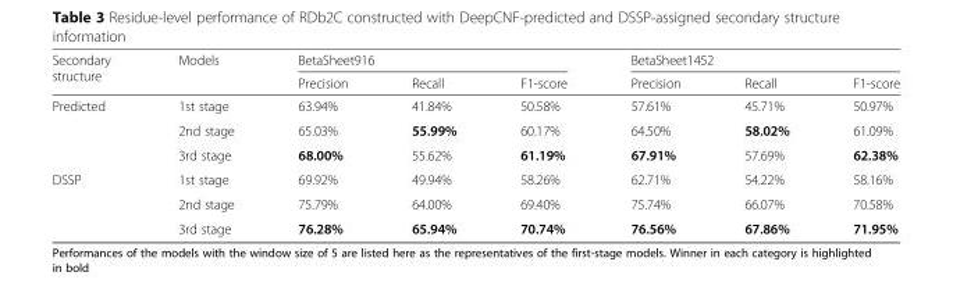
<table><thead><tr><td rowspan="2">Secondary structure</td><td rowspan="2">Models</td><td colspan="3">BetaSheet916</td><td colspan="3">BetaSheet1452</td></tr><tr><td>Precision</td><td>Recall</td><td>F1-score</td><td>Precision</td><td>Recall</td><td>F1-score</td></tr></thead><tbody><tr><td rowspan="3">Predicted</td><td>1st stage</td><td>63.94%</td><td>41.84%</td><td>50.58%</td><td>57.61%</td><td>45.71%</td><td>50.97%</td></tr><tr><td>2nd stage</td><td>65.03%</td><td>55.99%</td><td>60.17%</td><td>64.50%</td><td>58.02%</td><td>61.09%</td></tr><tr><td>3rd stage</td><td>68.00%</td><td>55.62%</td><td>61.19%</td><td>67.91%</td><td>57.69%</td><td>62.38%</td></tr><tr><td rowspan="3">DSSP</td><td>1st stage</td><td>69.92%</td><td>49.94%</td><td>58.26%</td><td>62.71%</td><td>54.22%</td><td>58.16%</td></tr><tr><td>2nd stage</td><td>75.79%</td><td>64.00%</td><td>69.40%</td><td>75.74%</td><td>66.07%</td><td>70.58%</td></tr><tr><td>3rd stage</td><td>76.28%</td><td>65.94%</td><td>70.74%</td><td>76.56%</td><td>67.86%</td><td>71.95%</td></tr></tbody></table>